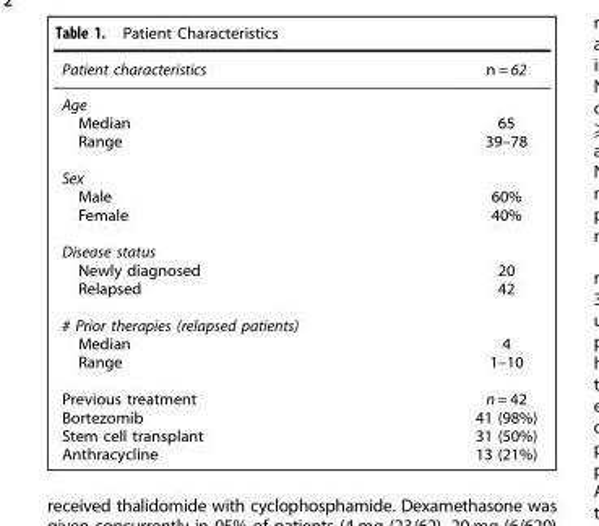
<table><thead><tr><td>Patient characteristics</td><td>n = 62</td></tr></thead><tbody><tr><td colspan="2">Age</td></tr><tr><td>Median</td><td>65</td></tr><tr><td>Range</td><td>39–78</td></tr><tr><td colspan="2">Sex</td></tr><tr><td>Male</td><td>60%</td></tr><tr><td>Female</td><td>40%</td></tr><tr><td colspan="2">Disease status</td></tr><tr><td>Newly diagnosed</td><td>20</td></tr><tr><td>Relapsed</td><td>42</td></tr><tr><td colspan="2"># Prior therapies (relapsed patients)</td></tr><tr><td>Median</td><td>4</td></tr><tr><td>Range</td><td>1–10</td></tr><tr><td>Previous treatment</td><td>n = 42</td></tr><tr><td>Bortezomib</td><td>41 (98%)</td></tr><tr><td>Stem cell transplant</td><td>31 (50%)</td></tr><tr><td>Anthracycline</td><td>13 (21%)</td></tr></tbody></table>